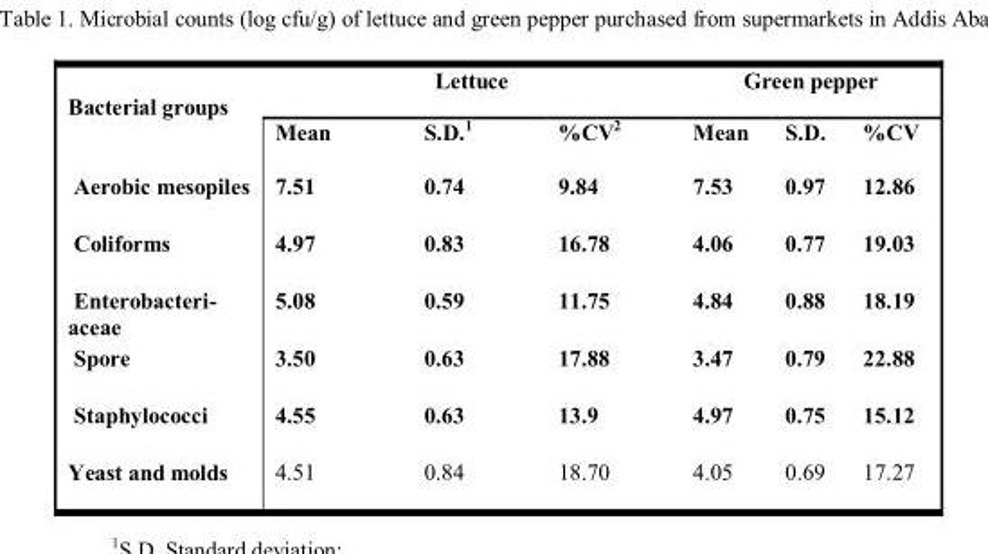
<table><thead><tr><td rowspan="2">Bacterial groups</td><td colspan="3">Lettuce</td><td colspan="3">Green pepper</td></tr><tr><td>Mean</td><td>S.D.<sup>1</sup></td><td>%CV<sup>2</sup></td><td>Mean</td><td>S.D.</td><td>%CV</td></tr></thead><tbody><tr><td>Aerobic mesopiles</td><td>7.51</td><td>0.74</td><td>9.84</td><td>7.53</td><td>0.97</td><td>12.86</td></tr><tr><td>Coliforms</td><td>4.97</td><td>0.83</td><td>16.78</td><td>4.06</td><td>0.77</td><td>19.03</td></tr><tr><td>Enterobacteri- aceae</td><td>5.08</td><td>0.59</td><td>11.75</td><td>4.84</td><td>0.88</td><td>18.19</td></tr><tr><td>Spore</td><td>3.50</td><td>0.63</td><td>17.88</td><td>3.47</td><td>0.79</td><td>22.88</td></tr><tr><td>Staphylococci</td><td>4.55</td><td>0.63</td><td>13.9</td><td>4.97</td><td>0.75</td><td>15.12</td></tr><tr><td>Yeast and molds</td><td>4.51</td><td>0.84</td><td>18.70</td><td>4.05</td><td>0.69</td><td>17.27</td></tr></tbody></table>